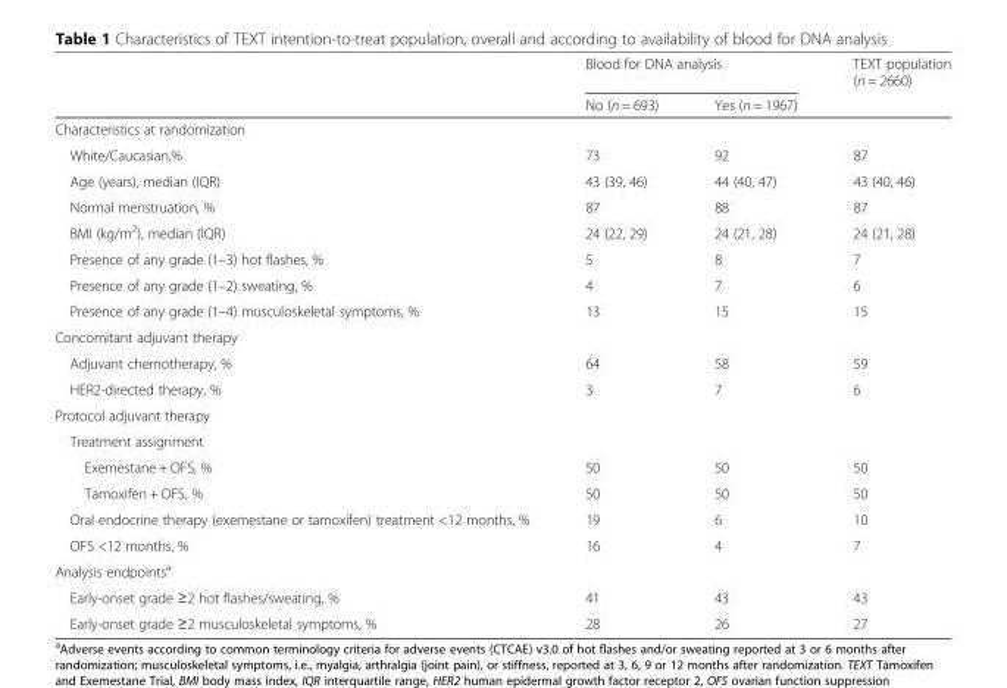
<table><thead><tr><td rowspan="2"></td><td colspan="2">Blood for DNA analysis</td><td rowspan="2">TEXT population (n = 2660)</td></tr><tr><td>No (n = 693)</td><td>Yes (n = 1967)</td></tr></thead><tbody><tr><td colspan="4">Characteristics at randomization</td></tr><tr><td>White/Caucasian,%</td><td>73</td><td>92</td><td>87</td></tr><tr><td>Age (years), median (IQR)</td><td>43 (39, 46)</td><td>44 (40, 47)</td><td>43 (40, 46)</td></tr><tr><td>Normal menstruation, %</td><td>87</td><td>88</td><td>87</td></tr><tr><td>BMI (kg/m<sup>2</sup>), median (IQR)</td><td>24 (22, 29)</td><td>24 (21, 28)</td><td>24 (21, 28)</td></tr><tr><td>Presence of any grade (1–3) hot flashes, %</td><td>5</td><td>8</td><td>7</td></tr><tr><td>Presence of any grade (1–2) sweating, %</td><td>4</td><td>7</td><td>6</td></tr><tr><td>Presence of any grade (1–4) musculoskeletal symptoms, %</td><td>13</td><td>15</td><td>15</td></tr><tr><td colspan="4">Concomitant adjuvant therapy</td></tr><tr><td>Adjuvant chemotherapy, %</td><td>64</td><td>58</td><td>59</td></tr><tr><td>HER2-directed therapy, %</td><td>3</td><td>7</td><td>6</td></tr><tr><td colspan="4">Protocol adjuvant therapy</td></tr><tr><td colspan="4">Treatment assignment</td></tr><tr><td>Exemestane + OFS, %</td><td>50</td><td>50</td><td>50</td></tr><tr><td>Tamoxifen + OFS, %</td><td>50</td><td>50</td><td>50</td></tr><tr><td>Oral endocrine therapy (exemestane or tamoxifen) treatment &lt;12 months, %</td><td>19</td><td>6</td><td>10</td></tr><tr><td>OFS &lt;12 months, %</td><td>16</td><td>4</td><td>7</td></tr><tr><td colspan="4">Analysis endpoints<sup>a</sup></td></tr><tr><td>Early-onset grade ≥2 hot flashes/sweating, %</td><td>41</td><td>43</td><td>43</td></tr><tr><td>Early-onset grade ≥2 musculoskeletal symptoms, %</td><td>28</td><td>26</td><td>27</td></tr></tbody></table>